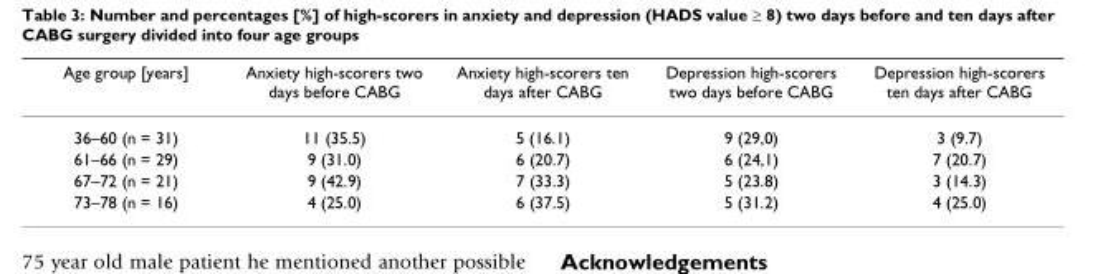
<table><thead><tr><td>Age group [years]</td><td>Anxiety high-scorers two days before CABG</td><td>Anxiety high-scorers ten days after CABG</td><td>Depression high-scorers two days before CABG</td><td>Depression high-scorers ten days after CABG</td></tr></thead><tbody><tr><td>36–60 (n = 31)</td><td>11 (35.5)</td><td>5 (16.1)</td><td>9 (29,0)</td><td>3 (9.7)</td></tr><tr><td>61–66 (n = 29)</td><td>9 (31.0)</td><td>6 (20.7)</td><td>6 (24,1)</td><td>7 (20.7)</td></tr><tr><td>67–72 (n = 21)</td><td>9 (42.9)</td><td>7 (33.3)</td><td>5 (23.8)</td><td>3 (14.3)</td></tr><tr><td>73–78 (n = 16)</td><td>4 (25.0)</td><td>6 (37.5)</td><td>5 (31.2)</td><td>4 (25.0)</td></tr></tbody></table>